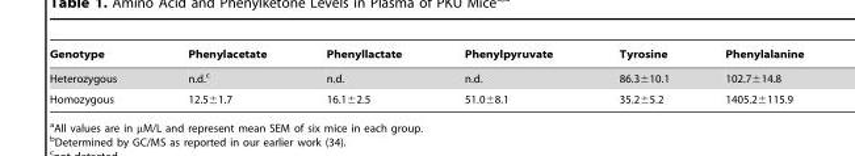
<table><thead><tr><td>Genotype</td><td>Phenylacetate</td><td>Phenyllactate</td><td>Phenylpyruvate</td><td>Tyrosine</td><td>Phenylalanine</td></tr></thead><tbody><tr><td>Heterozygous</td><td>n.d.<sup>c</sup></td><td>n.d.</td><td>n.d.</td><td>86.3±10.1</td><td>102.7±14.8</td></tr><tr><td>Homozygous</td><td>12.5±1.7</td><td>16.1±2.5</td><td>51.0±8.1</td><td>35.2±5.2</td><td>1405.2±115.9</td></tr></tbody></table>